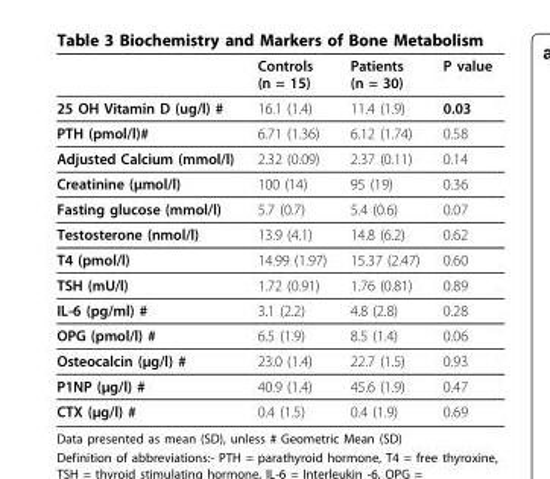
<table><thead><tr><td></td><td>Controls (n = 15)</td><td>Patients (n = 30)</td><td>P value</td></tr></thead><tbody><tr><td>25 OH Vitamin D (ug/l) #</td><td>16.1 (1.4)</td><td>11.4 (1.9)</td><td>0.03</td></tr><tr><td>PTH (pmol/l)#</td><td>6.71 (1.36)</td><td>6.12 (1.74)</td><td>0.58</td></tr><tr><td>Adjusted Calcium (mmol/l)</td><td>2.32 (0.09)</td><td>2.37 (0.11)</td><td>0.14</td></tr><tr><td>Creatinine (μmol/l)</td><td>100 (14)</td><td>95 (19)</td><td>0.36</td></tr><tr><td>Fasting glucose (mmol/l)</td><td>5.7 (0.7)</td><td>5.4 (0.6)</td><td>0.07</td></tr><tr><td>Testosterone (nmol/l)</td><td>13.9 (4.1)</td><td>14.8 (6.2)</td><td>0.62</td></tr><tr><td>T4 (pmol/l)</td><td>14.99 (1.97)</td><td>15.37 (2.47)</td><td>0.60</td></tr><tr><td>TSH (mU/l)</td><td>1.72 (0.91)</td><td>1.76 (0.81)</td><td>0.89</td></tr><tr><td>IL-6 (pg/ml) #</td><td>3.1 (2.2)</td><td>4.8 (2.8)</td><td>0.28</td></tr><tr><td>OPG (pmol/l) #</td><td>6.5 (1.9)</td><td>8.5 (1.4)</td><td>0.06</td></tr><tr><td>Osteocalcin (μg/l) #</td><td>23.0 (1.4)</td><td>22.7 (1.5)</td><td>0.93</td></tr><tr><td>P1NP (μg/l) #</td><td>40.9 (1.4)</td><td>45.6 (1.9)</td><td>0.47</td></tr><tr><td>CTX (μg/l) #</td><td>0.4 (1.5)</td><td>0.4 (1.9)</td><td>0.69</td></tr></tbody></table>